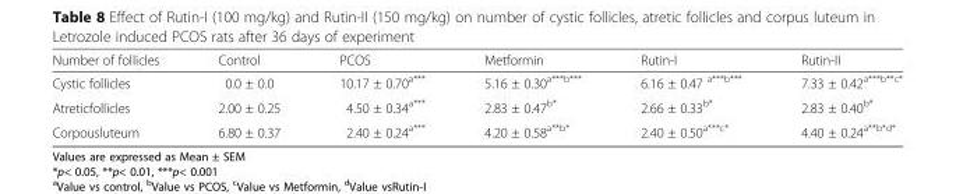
<table><thead><tr><td>Number of follicles</td><td>Control</td><td>PCOS</td><td>Metformin</td><td>Rutin-I</td><td>Rutin-II</td></tr></thead><tbody><tr><td>Cystic follicles</td><td>0.0 ± 0.0</td><td>10.17 ± 0.70<sup>a***</sup></td><td>5.16 ± 0.30<sup>a***b***</sup></td><td>6.16 ± 0.47 <sup>a***b***</sup></td><td>7.33 ± 0.42<sup>a***b**c*</sup></td></tr><tr><td>Atreticfollicles</td><td>2.00 ± 0.25</td><td>4.50 ± 0.34<sup>a***</sup></td><td>2.83 ± 0.47<sup>b*</sup></td><td>2.66 ± 0.33<sup>b*</sup></td><td>2.83 ± 0.40<sup>b*</sup></td></tr><tr><td>Corpousluteum</td><td>6.80 ± 0.37</td><td>2.40 ± 0.24<sup>a***</sup></td><td>4.20 ± 0.58<sup>a**b*</sup></td><td>2.40 ± 0.50<sup>a***c*</sup></td><td>4.40 ± 0.24<sup>a**b*d*</sup></td></tr></tbody></table>